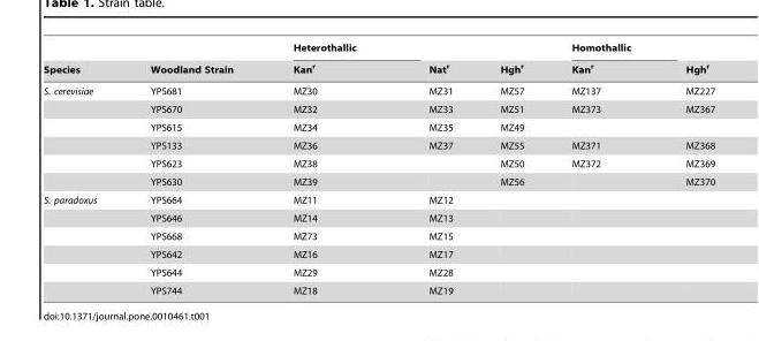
<table><thead><tr><td rowspan="2">Species</td><td rowspan="2">Woodland Strain</td><td rowspan="2">Heterothallic Kan<sup>r</sup></td><td rowspan="2">Nat<sup>r</sup></td><td rowspan="2">Hgh<sup>r</sup></td><td rowspan="2">Homothallic Kan<sup>r</sup></td><td rowspan="2">Hgh<sup>r</sup></td></tr><tr></tr></thead><tbody><tr><td rowspan="6">S. cerevisiae</td><td>YPS681</td><td>MZ30</td><td>MZ31</td><td>MZ57</td><td>MZ137</td><td>MZ227</td></tr><tr><td>YPS670</td><td>MZ32</td><td>MZ33</td><td>MZ51</td><td>MZ373</td><td>MZ367</td></tr><tr><td>YPS615</td><td>MZ34</td><td>MZ35</td><td>MZ49</td><td></td><td></td></tr><tr><td>YPS133</td><td>MZ36</td><td>MZ37</td><td>MZ55</td><td>MZ371</td><td>MZ368</td></tr><tr><td>YPS623</td><td>MZ38</td><td></td><td>MZ50</td><td>MZ372</td><td>MZ369</td></tr><tr><td>YPS630</td><td>MZ39</td><td></td><td>MZ56</td><td></td><td>MZ370</td></tr><tr><td rowspan="6">S. paradoxus</td><td>YPS664</td><td>MZ11</td><td>MZ12</td><td></td><td></td><td></td></tr><tr><td>YPS646</td><td>MZ14</td><td>MZ13</td><td></td><td></td><td></td></tr><tr><td>YPS668</td><td>MZ73</td><td>MZ15</td><td></td><td></td><td></td></tr><tr><td>YPS642</td><td>MZ16</td><td>MZ17</td><td></td><td></td><td></td></tr><tr><td>YPS644</td><td>MZ29</td><td>MZ28</td><td></td><td></td><td></td></tr><tr><td>YPS744</td><td>MZ18</td><td>MZ19</td><td></td><td></td><td></td></tr></tbody></table>